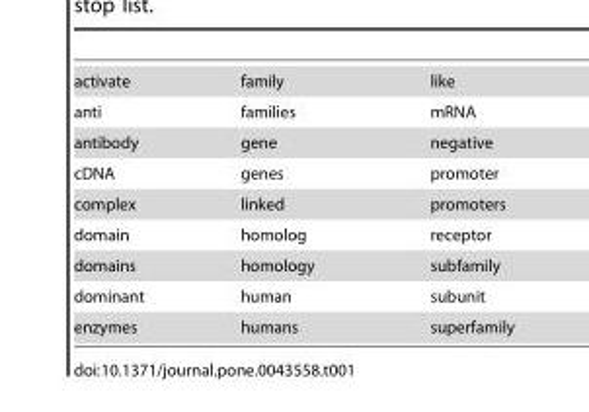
<table><tbody><tr><td>activate</td><td>family</td><td>like</td></tr><tr><td>anti</td><td>families</td><td>mRNA</td></tr><tr><td>antibody</td><td>gene</td><td>negative</td></tr><tr><td>cDNA</td><td>genes</td><td>promoter</td></tr><tr><td>complex</td><td>linked</td><td>promoters</td></tr><tr><td>domain</td><td>homolog</td><td>receptor</td></tr><tr><td>domains</td><td>homology</td><td>subfamily</td></tr><tr><td>dominant</td><td>human</td><td>subunit</td></tr><tr><td>enzymes</td><td>humans</td><td>superfamily</td></tr></tbody></table>